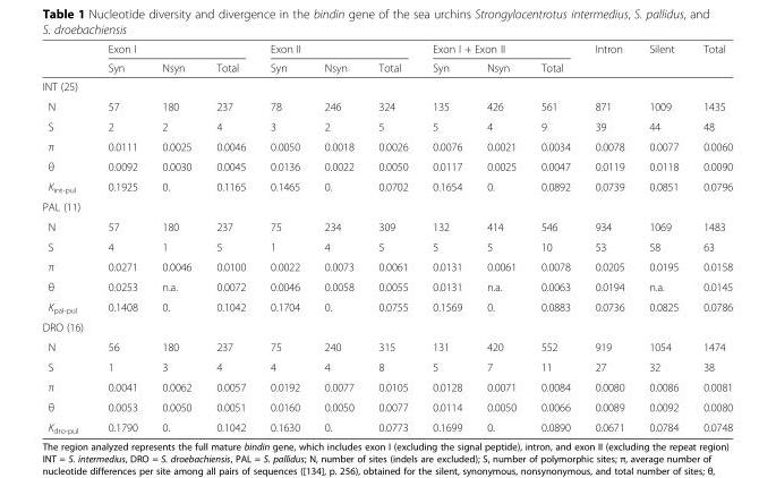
<table><thead><tr><td rowspan="2"></td><td colspan="3">Exon I</td><td colspan="3">Exon II</td><td colspan="3">Exon I + Exon II</td><td rowspan="2">Intron</td><td rowspan="2">Silent</td><td rowspan="2">Total</td></tr><tr><td>Syn</td><td>Nsyn</td><td>Total</td><td>Syn</td><td>Nsyn</td><td>Total</td><td>Syn</td><td>Nsyn</td><td>Total</td></tr></thead><tbody><tr><td colspan="13">INT (25)</td></tr><tr><td>N</td><td>57</td><td>180</td><td>237</td><td>78</td><td>246</td><td>324</td><td>135</td><td>426</td><td>561</td><td>871</td><td>1009</td><td>1435</td></tr><tr><td>S</td><td>2</td><td>2</td><td>4</td><td>3</td><td>2</td><td>5</td><td>5</td><td>4</td><td>9</td><td>39</td><td>44</td><td>48</td></tr><tr><td>π</td><td>0.0111</td><td>0.0025</td><td>0.0046</td><td>0.0050</td><td>0.0018</td><td>0.0026</td><td>0.0076</td><td>0.0021</td><td>0.0034</td><td>0.0078</td><td>0.0077</td><td>0.0060</td></tr><tr><td>θ</td><td>0.0092</td><td>0.0030</td><td>0.0045</td><td>0.0136</td><td>0.0022</td><td>0.0050</td><td>0.0117</td><td>0.0025</td><td>0.0047</td><td>0.0119</td><td>0.0118</td><td>0.0090</td></tr><tr><td>K<sub>int-pul</sub></td><td>0.1925</td><td>0.</td><td>0.1165</td><td>0.1465</td><td>0.</td><td>0.0702</td><td>0.1654</td><td>0.</td><td>0.0892</td><td>0.0739</td><td>0.0851</td><td>0.0796</td></tr><tr><td colspan="13">PAL (11)</td></tr><tr><td>N</td><td>57</td><td>180</td><td>237</td><td>75</td><td>234</td><td>309</td><td>132</td><td>414</td><td>546</td><td>934</td><td>1069</td><td>1483</td></tr><tr><td>S</td><td>4</td><td>1</td><td>5</td><td>1</td><td>4</td><td>5</td><td>5</td><td>5</td><td>10</td><td>53</td><td>58</td><td>63</td></tr><tr><td>π</td><td>0.0271</td><td>0.0046</td><td>0.0100</td><td>0.0022</td><td>0.0073</td><td>0.0061</td><td>0.0131</td><td>0.0061</td><td>0.0078</td><td>0.0205</td><td>0.0195</td><td>0.0158</td></tr><tr><td>θ</td><td>0.0253</td><td>n.a.</td><td>0.0072</td><td>0.0046</td><td>0.0058</td><td>0.0055</td><td>0.0131</td><td>n.a.</td><td>0.0063</td><td>0.0194</td><td>n.a.</td><td>0.0145</td></tr><tr><td>K<sub>pal-pul</sub></td><td>0.1408</td><td>0.</td><td>0.1042</td><td>0.1704</td><td>0.</td><td>0.0755</td><td>0.1569</td><td>0.</td><td>0.0883</td><td>0.0736</td><td>0.0825</td><td>0.0786</td></tr><tr><td colspan="13">DRO (16)</td></tr><tr><td>N</td><td>56</td><td>180</td><td>237</td><td>75</td><td>240</td><td>315</td><td>131</td><td>420</td><td>552</td><td>919</td><td>1054</td><td>1474</td></tr><tr><td>S</td><td>1</td><td>3</td><td>4</td><td>4</td><td>4</td><td>8</td><td>5</td><td>7</td><td>11</td><td>27</td><td>32</td><td>38</td></tr><tr><td>π</td><td>0.0041</td><td>0.0062</td><td>0.0057</td><td>0.0192</td><td>0.0077</td><td>0.0105</td><td>0.0128</td><td>0.0071</td><td>0.0084</td><td>0.0080</td><td>0.0086</td><td>0.0081</td></tr><tr><td>θ</td><td>0.0053</td><td>0.0050</td><td>0.0051</td><td>0.0160</td><td>0.0050</td><td>0.0077</td><td>0.0114</td><td>0.0050</td><td>0.0066</td><td>0.0089</td><td>0.0092</td><td>0.0080</td></tr><tr><td>K<sub>dro-pul</sub></td><td>0.1790</td><td>0.</td><td>0.1042</td><td>0.1630</td><td>0.</td><td>0.0773</td><td>0.1699</td><td>0.</td><td>0.0890</td><td>0.0671</td><td>0.0784</td><td>0.0748</td></tr></tbody></table>